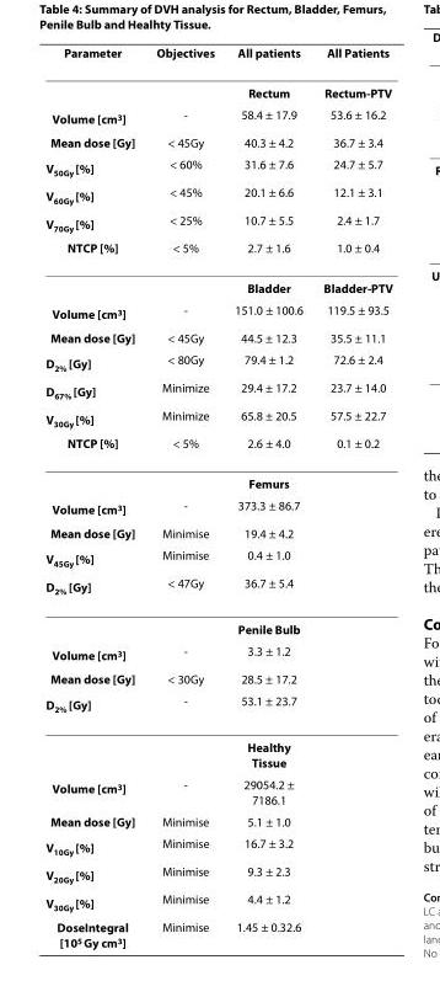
<table><thead><tr><td>Parameter</td><td>Objectives</td><td>All patients</td><td>All Patients</td></tr></thead><tbody><tr><td></td><td></td><td>Rectum</td><td>Rectum-PTV</td></tr><tr><td>Volume [cm<sup>3</sup>]</td><td>-</td><td>58.4 ± 17.9</td><td>53.6 ± 16.2</td></tr><tr><td>Mean dose [Gy]</td><td>&lt; 45Gy</td><td>40.3 ± 4.2</td><td>36.7 ± 3.4</td></tr><tr><td>V<sub>50Gy</sub> [%]</td><td>&lt; 60%</td><td>31.6 ± 7.6</td><td>24.7 ± 5.7</td></tr><tr><td>V<sub>60Gy</sub> [%]</td><td>&lt; 45%</td><td>20.1 ± 6.6</td><td>12.1 ± 3.1</td></tr><tr><td>V<sub>70Gy</sub> [%]</td><td>&lt; 25%</td><td>10.7 ± 5.5</td><td>2.4 ± 1.7</td></tr><tr><td rowspan="2">NTCP [%]</td><td>&lt; 5%</td><td>2.7 ± 1.6</td><td>1.0 ± 0.4</td></tr><tr><td></td><td>Bladder</td><td>Bladder-PTV</td></tr><tr><td>Volume [cm<sup>3</sup>]</td><td>-</td><td>151.0 ± 100.6</td><td>119.5 ± 93.5</td></tr><tr><td>Mean dose [Gy]</td><td>&lt; 45Gy</td><td>44.5 ± 12.3</td><td>35.5 ± 11.1</td></tr><tr><td>D<sub>2%</sub> [Gy]</td><td>&lt; 80Gy</td><td>79.4 ± 1.2</td><td>72.6 ± 2.4</td></tr><tr><td>D<sub>67%</sub> [Gy]</td><td>Minimize</td><td>29.4 ± 17.2</td><td>23.7 ± 14.0</td></tr><tr><td>V<sub>30Gy</sub> [%]</td><td>Minimize</td><td>65.8 ± 20.5</td><td>57.5 ± 22.7</td></tr><tr><td rowspan="2">NTCP [%]</td><td>&lt; 5%</td><td>2.6 ± 4.0</td><td>0.1 ± 0.2</td></tr><tr><td></td><td>Femurs</td><td></td></tr><tr><td>Volume [cm<sup>3</sup>]</td><td>-</td><td>373.3 ± 86.7</td><td></td></tr><tr><td>Mean dose [Gy]</td><td>Minimise</td><td>19.4 ± 4.2</td><td></td></tr><tr><td>V<sub>45Gy</sub> [%]</td><td>Minimise</td><td>0.4 ± 1.0</td><td></td></tr><tr><td rowspan="2">D<sub>2%</sub> [Gy]</td><td>&lt; 47Gy</td><td>36.7 ± 5.4</td><td></td></tr><tr><td></td><td>Penile Bulb</td><td></td></tr><tr><td>Volume [cm<sup>3</sup>]</td><td>-</td><td>3.3 ± 1.2</td><td></td></tr><tr><td>Mean dose [Gy]</td><td>&lt; 30Gy</td><td>28.5 ± 17.2</td><td></td></tr><tr><td rowspan="2">D<sub>2%</sub> [Gy]</td><td>-</td><td>53.1 ± 23.7</td><td></td></tr><tr><td></td><td>Healthy Tissue</td><td></td></tr><tr><td>Volume [cm<sup>3</sup>]</td><td>-</td><td>29054.2 ± 7186.1</td><td></td></tr><tr><td>Mean dose [Gy]</td><td>Minimise</td><td>5.1 ± 1.0</td><td></td></tr><tr><td>V<sub>10Gy</sub> [%]</td><td>Minimise</td><td>16.7 ± 3.2</td><td></td></tr><tr><td>V<sub>20Gy</sub> [%]</td><td>Minimise</td><td>9.3 ± 2.3</td><td></td></tr><tr><td>V<sub>30Gy</sub> [%]</td><td>Minimise</td><td>4.4 ± 1.2</td><td></td></tr><tr><td>DoseIntegral [10<sup>5</sup> Gy cm<sup>3</sup>]</td><td>Minimise</td><td>1.45 ± 0.32.6</td><td></td></tr></tbody></table>